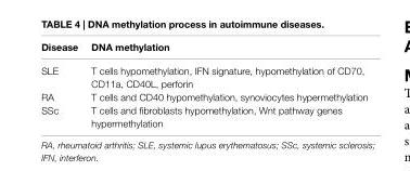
<table><thead><tr><td>Disease</td><td>DNA methylation</td></tr></thead><tbody><tr><td>SLE</td><td>T cells hypomethylation, IFN signature, hypomethylation of CD70, CD11a, CD40L, perforin</td></tr><tr><td>RA</td><td>T cells and CD40 hypomethylation, synoviocytes hypermethylation</td></tr><tr><td>SSc</td><td>T cells and fibroblasts hypomethylation, Wnt pathway genes hypermethylation</td></tr></tbody></table>